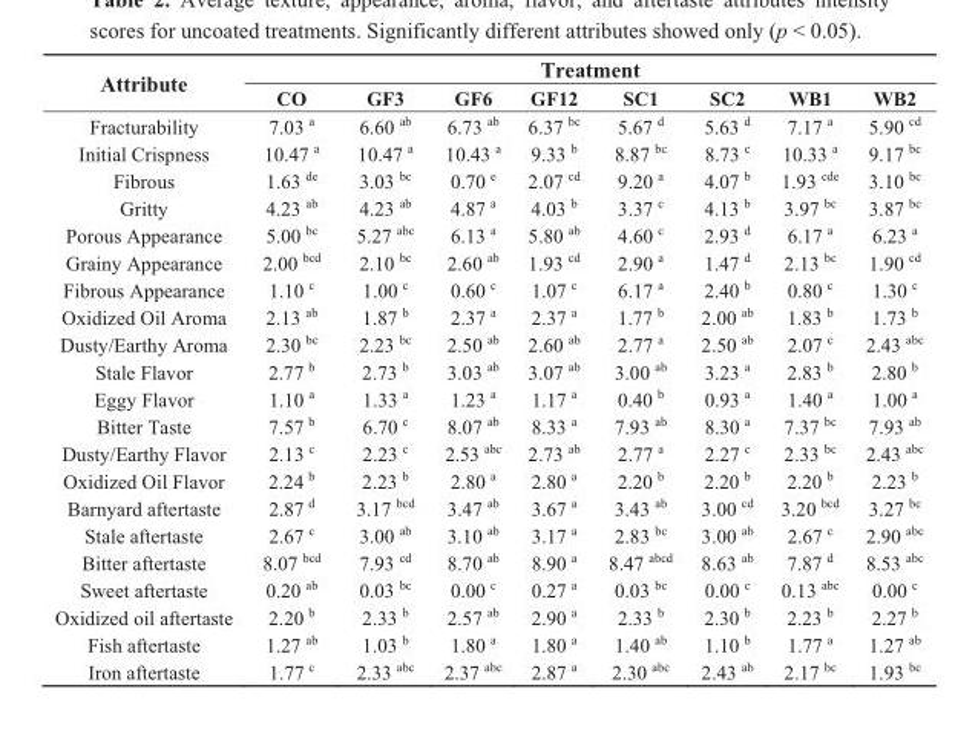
<table><thead><tr><td rowspan="2">Attribute</td><td colspan="8">Treatment</td></tr><tr><td>CO</td><td>GF3</td><td>GF6</td><td>GF12</td><td>SC1</td><td>SC2</td><td>WB1</td><td>WB2</td></tr></thead><tbody><tr><td>Fracturability</td><td>7.03 <sup>a</sup></td><td>6.60 <sup>ab</sup></td><td>6.73 <sup>ab</sup></td><td>6.37 <sup>bc</sup></td><td>5.67 <sup>d</sup></td><td>5.63 <sup>d</sup></td><td>7.17 <sup>a</sup></td><td>5.90 <sup>cd</sup></td></tr><tr><td>Initial Crispness</td><td>10.47 <sup>a</sup></td><td>10.47 <sup>a</sup></td><td>10.43 <sup>a</sup></td><td>9.33 <sup>b</sup></td><td>8.87 <sup>bc</sup></td><td>8.73 <sup>c</sup></td><td>10.33 <sup>a</sup></td><td>9.17 <sup>bc</sup></td></tr><tr><td>Fibrous</td><td>1.63 <sup>de</sup></td><td>3.03 <sup>bc</sup></td><td>0.70 <sup>e</sup></td><td>2.07 <sup>cd</sup></td><td>9.20 <sup>a</sup></td><td>4.07 <sup>b</sup></td><td>1.93 <sup>cde</sup></td><td>3.10 <sup>bc</sup></td></tr><tr><td>Gritty</td><td>4.23 <sup>ab</sup></td><td>4.23 <sup>ab</sup></td><td>4.87 <sup>a</sup></td><td>4.03 <sup>b</sup></td><td>3.37 <sup>c</sup></td><td>4.13 <sup>b</sup></td><td>3.97 <sup>bc</sup></td><td>3.87 <sup>bc</sup></td></tr><tr><td>Porous Appearance</td><td>5.00 <sup>bc</sup></td><td>5.27 <sup>abc</sup></td><td>6.13 <sup>a</sup></td><td>5.80 <sup>ab</sup></td><td>4.60 <sup>c</sup></td><td>2.93 <sup>d</sup></td><td>6.17 <sup>a</sup></td><td>6.23 <sup>a</sup></td></tr><tr><td>Grainy Appearance</td><td>2.00 <sup>bcd</sup></td><td>2.10 <sup>bc</sup></td><td>2.60 <sup>ab</sup></td><td>1.93 <sup>cd</sup></td><td>2.90 <sup>a</sup></td><td>1.47 <sup>d</sup></td><td>2.13 <sup>bc</sup></td><td>1.90 <sup>cd</sup></td></tr><tr><td>Fibrous Appearance</td><td>1.10 <sup>c</sup></td><td>1.00 <sup>c</sup></td><td>0.60 <sup>c</sup></td><td>1.07 <sup>c</sup></td><td>6.17 <sup>a</sup></td><td>2.40 <sup>b</sup></td><td>0.80 <sup>c</sup></td><td>1.30 <sup>c</sup></td></tr><tr><td>Oxidized Oil Aroma</td><td>2.13 <sup>ab</sup></td><td>1.87 <sup>b</sup></td><td>2.37 <sup>a</sup></td><td>2.37 <sup>a</sup></td><td>1.77 <sup>b</sup></td><td>2.00 <sup>ab</sup></td><td>1.83 <sup>b</sup></td><td>1.73 <sup>b</sup></td></tr><tr><td>Dusty/Earthy Aroma</td><td>2.30 <sup>bc</sup></td><td>2.23 <sup>bc</sup></td><td>2.50 <sup>ab</sup></td><td>2.60 <sup>ab</sup></td><td>2.77 <sup>a</sup></td><td>2.50 <sup>ab</sup></td><td>2.07 <sup>c</sup></td><td>2.43 <sup>abc</sup></td></tr><tr><td>Stale Flavor</td><td>2.77 <sup>b</sup></td><td>2.73 <sup>b</sup></td><td>3.03 <sup>ab</sup></td><td>3.07 <sup>ab</sup></td><td>3.00 <sup>ab</sup></td><td>3.23 <sup>a</sup></td><td>2.83 <sup>b</sup></td><td>2.80 <sup>b</sup></td></tr><tr><td>Eggy Flavor</td><td>1.10 <sup>a</sup></td><td>1.33 <sup>a</sup></td><td>1.23 <sup>a</sup></td><td>1.17 <sup>a</sup></td><td>0.40 <sup>b</sup></td><td>0.93 <sup>a</sup></td><td>1.40 <sup>a</sup></td><td>1.00 <sup>a</sup></td></tr><tr><td>Bitter Taste</td><td>7.57 <sup>b</sup></td><td>6.70 <sup>c</sup></td><td>8.07 <sup>ab</sup></td><td>8.33 <sup>a</sup></td><td>7.93 <sup>ab</sup></td><td>8.30 <sup>a</sup></td><td>7.37 <sup>bc</sup></td><td>7.93 <sup>ab</sup></td></tr><tr><td>Dusty/Earthy Flavor</td><td>2.13 <sup>c</sup></td><td>2.23 <sup>c</sup></td><td>2.53 <sup>abc</sup></td><td>2.73 <sup>ab</sup></td><td>2.77 <sup>a</sup></td><td>2.27 <sup>c</sup></td><td>2.33 <sup>bc</sup></td><td>2.43 <sup>abc</sup></td></tr><tr><td>Oxidized Oil Flavor</td><td>2.24 <sup>b</sup></td><td>2.23 <sup>b</sup></td><td>2.80 <sup>a</sup></td><td>2.80 <sup>a</sup></td><td>2.20 <sup>b</sup></td><td>2.20 <sup>b</sup></td><td>2.20 <sup>b</sup></td><td>2.23 <sup>b</sup></td></tr><tr><td>Barnyard aftertaste</td><td>2.87 <sup>d</sup></td><td>3.17 <sup>bcd</sup></td><td>3.47 <sup>ab</sup></td><td>3.67 <sup>a</sup></td><td>3.43 <sup>ab</sup></td><td>3.00 <sup>cd</sup></td><td>3.20 <sup>bcd</sup></td><td>3.27 <sup>bc</sup></td></tr><tr><td>Stale aftertaste</td><td>2.67 <sup>c</sup></td><td>3.00 <sup>ab</sup></td><td>3.10 <sup>ab</sup></td><td>3.17 <sup>a</sup></td><td>2.83 <sup>bc</sup></td><td>3.00 <sup>ab</sup></td><td>2.67 <sup>c</sup></td><td>2.90 <sup>abc</sup></td></tr><tr><td>Bitter aftertaste</td><td>8.07 <sup>bcd</sup></td><td>7.93 <sup>cd</sup></td><td>8.70 <sup>ab</sup></td><td>8.90 <sup>a</sup></td><td>8.47 <sup>abcd</sup></td><td>8.63 <sup>ab</sup></td><td>7.87 <sup>d</sup></td><td>8.53 <sup>abc</sup></td></tr><tr><td>Sweet aftertaste</td><td>0.20 <sup>ab</sup></td><td>0.03 <sup>bc</sup></td><td>0.00 <sup>c</sup></td><td>0.27 <sup>a</sup></td><td>0.03 <sup>bc</sup></td><td>0.00 <sup>c</sup></td><td>0.13 <sup>abc</sup></td><td>0.00 <sup>c</sup></td></tr><tr><td>Oxidized oil aftertaste</td><td>2.20 <sup>b</sup></td><td>2.33 <sup>b</sup></td><td>2.57 <sup>ab</sup></td><td>2.90 <sup>a</sup></td><td>2.33 <sup>b</sup></td><td>2.30 <sup>b</sup></td><td>2.23 <sup>b</sup></td><td>2.27 <sup>b</sup></td></tr><tr><td>Fish aftertaste</td><td>1.27 <sup>ab</sup></td><td>1.03 <sup>b</sup></td><td>1.80 <sup>a</sup></td><td>1.80 <sup>a</sup></td><td>1.40 <sup>ab</sup></td><td>1.10 <sup>b</sup></td><td>1.77 <sup>a</sup></td><td>1.27 <sup>ab</sup></td></tr><tr><td>Iron aftertaste</td><td>1.77 <sup>c</sup></td><td>2.33 <sup>abc</sup></td><td>2.37 <sup>abc</sup></td><td>2.87 <sup>a</sup></td><td>2.30 <sup>abc</sup></td><td>2.43 <sup>ab</sup></td><td>2.17 <sup>bc</sup></td><td>1.93 <sup>bc</sup></td></tr></tbody></table>